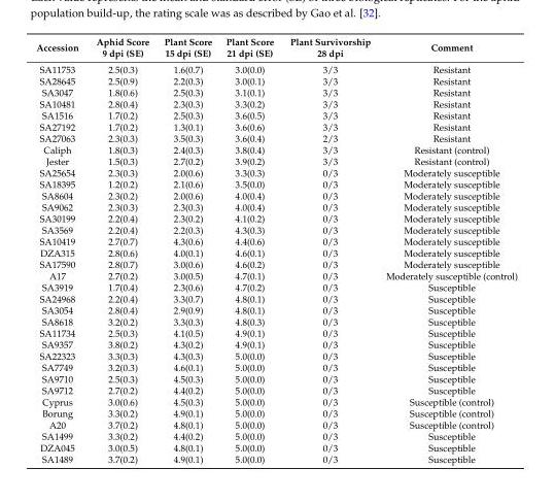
<table><thead><tr><td>Accession</td><td>Aphid Score 9 dpi (SE)</td><td>Plant Score 15 dpi (SE)</td><td>Plant Score 21 dpi (SE)</td><td>Plant Survivorship 28 dpi</td><td>Comment</td></tr></thead><tbody><tr><td>SA11753</td><td>2.5(0.3)</td><td>1.6(0.7)</td><td>3.0(0.0)</td><td>3/3</td><td>Resistant</td></tr><tr><td>SA28645</td><td>2.5(0.9)</td><td>2.2(0.3)</td><td>3.0(0.1)</td><td>3/3</td><td>Resistant</td></tr><tr><td>SA3047</td><td>1.8(0.6)</td><td>2.5(0.3)</td><td>3.1(0.1)</td><td>3/3</td><td>Resistant</td></tr><tr><td>SA10481</td><td>2.8(0.4)</td><td>2.3(0.3)</td><td>3.3(0.2)</td><td>3/3</td><td>Resistant</td></tr><tr><td>SA1516</td><td>1.7(0.2)</td><td>2.5(0.3)</td><td>3.6(0.5)</td><td>3/3</td><td>Resistant</td></tr><tr><td>SA27192</td><td>1.7(0.2)</td><td>1.3(0.1)</td><td>3.6(0.6)</td><td>3/3</td><td>Resistant</td></tr><tr><td>SA27063</td><td>2.3(0.3)</td><td>3.5(0.3)</td><td>3.6(0.4)</td><td>2/3</td><td>Resistant</td></tr><tr><td>Caliph</td><td>1.8(0.3)</td><td>2.4(0.3)</td><td>3.8(0.4)</td><td>3/3</td><td>Resistant (control)</td></tr><tr><td>Jester</td><td>1.5(0.3)</td><td>2.7(0.2)</td><td>3.9(0.2)</td><td>3/3</td><td>Resistant (control)</td></tr><tr><td>SA25654</td><td>2.3(0.3)</td><td>2.0(0.6)</td><td>3.3(0.3)</td><td>0/3</td><td>Moderately susceptible</td></tr><tr><td>SA18395</td><td>1.2(0.2)</td><td>2.1(0.6)</td><td>3.5(0.0)</td><td>0/3</td><td>Moderately susceptible</td></tr><tr><td>SA8604</td><td>2.3(0.2)</td><td>2.0(0.6)</td><td>4.0(0.4)</td><td>0/3</td><td>Moderately susceptible</td></tr><tr><td>SA9062</td><td>2.3(0.3)</td><td>2.3(0.3)</td><td>4.0(0.4)</td><td>0/3</td><td>Moderately susceptible</td></tr><tr><td>SA30199</td><td>2.2(0.4)</td><td>2.3(0.2)</td><td>4.1(0.2)</td><td>0/3</td><td>Moderately susceptible</td></tr><tr><td>SA3569</td><td>2.2(0.4)</td><td>2.2(0.3)</td><td>4.3(0.3)</td><td>0/3</td><td>Moderately susceptible</td></tr><tr><td>SA10419</td><td>2.7(0.7)</td><td>4.3(0.6)</td><td>4.4(0.6)</td><td>0/3</td><td>Moderately susceptible</td></tr><tr><td>DZA315</td><td>2.8(0.6)</td><td>4.0(0.1)</td><td>4.6(0.1)</td><td>0/3</td><td>Moderately susceptible</td></tr><tr><td>SA17590</td><td>2.8(0.7)</td><td>3.0(0.6)</td><td>4.6(0.2)</td><td>0/3</td><td>Moderately susceptible</td></tr><tr><td>A17</td><td>2.7(0.2)</td><td>3.0(0.5)</td><td>4.7(0.1)</td><td>0/3</td><td>Moderately susceptible (control)</td></tr><tr><td>SA3919</td><td>1.7(0.4)</td><td>2.3(0.6)</td><td>4.7(0.2)</td><td>0/3</td><td>Susceptible</td></tr><tr><td>SA24968</td><td>2.2(0.4)</td><td>3.3(0.7)</td><td>4.8(0.1)</td><td>0/3</td><td>Susceptible</td></tr><tr><td>SA3054</td><td>2.8(0.4)</td><td>2.9(0.9)</td><td>4.8(0.1)</td><td>0/3</td><td>Susceptible</td></tr><tr><td>SA8618</td><td>3.2(0.2)</td><td>3.3(0.3)</td><td>4.8(0.3)</td><td>0/3</td><td>Susceptible</td></tr><tr><td>SA11734</td><td>2.5(0.3)</td><td>4.1(0.5)</td><td>4.9(0.1)</td><td>0/3</td><td>Susceptible</td></tr><tr><td>SA9357</td><td>3.8(0.2)</td><td>4.3(0.2)</td><td>4.9(0.1)</td><td>0/3</td><td>Susceptible</td></tr><tr><td>SA22323</td><td>3.3(0.3)</td><td>4.3(0.3)</td><td>5.0(0.0)</td><td>0/3</td><td>Susceptible</td></tr><tr><td>SA7749</td><td>3.2(0.3)</td><td>4.6(0.1)</td><td>5.0(0.0)</td><td>0/3</td><td>Susceptible</td></tr><tr><td>SA9710</td><td>2.5(0.3)</td><td>4.5(0.3)</td><td>5.0(0.0)</td><td>0/3</td><td>Susceptible</td></tr><tr><td>SA9712</td><td>2.7(0.2)</td><td>4.4(0.2)</td><td>5.0(0.0)</td><td>0/3</td><td>Susceptible</td></tr><tr><td>Cyprus</td><td>3.0(0.6)</td><td>4.5(0.3)</td><td>5.0(0.0)</td><td>0/3</td><td>Susceptible (control)</td></tr><tr><td>Borung</td><td>3.3(0.2)</td><td>4.9(0.1)</td><td>5.0(0.0)</td><td>0/3</td><td>Susceptible (control)</td></tr><tr><td>A20</td><td>3.7(0.2)</td><td>4.8(0.1)</td><td>5.0(0.0)</td><td>0/3</td><td>Susceptible (control)</td></tr><tr><td>SA1499</td><td>3.3(0.2)</td><td>4.4(0.2)</td><td>5.0(0.0)</td><td>0/3</td><td>Susceptible</td></tr><tr><td>DZA045</td><td>3.0(0.5)</td><td>4.8(0.1)</td><td>5.0(0.0)</td><td>0/3</td><td>Susceptible</td></tr><tr><td>SA1489</td><td>3.7(0.2)</td><td>4.9(0.1)</td><td>5.0(0.0)</td><td>0/3</td><td>Susceptible</td></tr></tbody></table>